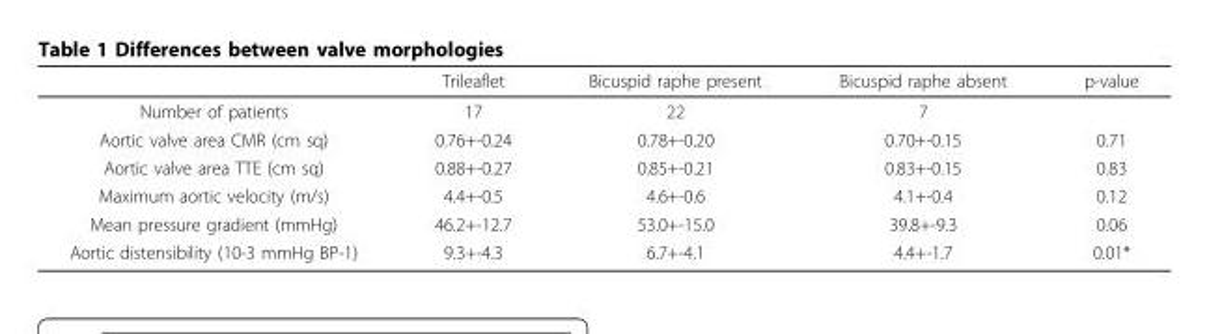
<table><thead><tr><td></td><td>Trileaflet</td><td>Bicuspid raphe present</td><td>Bicuspid raphe absent</td><td>p-value</td></tr></thead><tbody><tr><td>Number of patients</td><td>17</td><td>22</td><td>7</td><td></td></tr><tr><td>Aortic valve area CMR (cm sq)</td><td>0.76+-0.24</td><td>0.78+-0.20</td><td>0.70+-0.15</td><td>0.71</td></tr><tr><td>Aortic valve area TTE (cm sq)</td><td>0.88+-0.27</td><td>0.85+-0.21</td><td>0.83+-0.15</td><td>0.83</td></tr><tr><td>Maximum aortic velocity (m/s)</td><td>4.4+-0.5</td><td>4.6+-0.6</td><td>4.1+-0.4</td><td>0.12</td></tr><tr><td>Mean pressure gradient (mmHg)</td><td>46.2+-12.7</td><td>53.0+-15.0</td><td>39.8+-9.3</td><td>0.06</td></tr><tr><td>Aortic distensibility (10-3 mmHg BP-1)</td><td>9.3+-4.3</td><td>6.7+-4.1</td><td>4.4+-1.7</td><td>0.01*</td></tr></tbody></table>